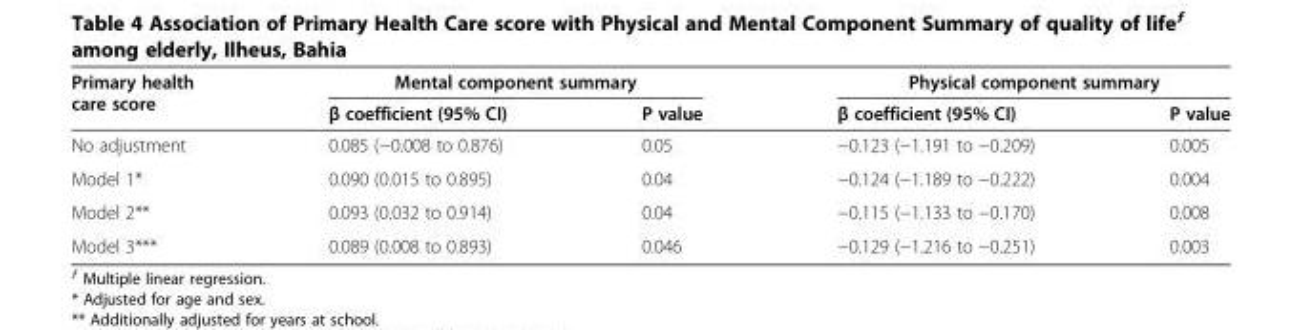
<table><thead><tr><td rowspan="2">Primary health care score</td><td colspan="2">Mental component summary</td><td colspan="2">Physical component summary</td></tr><tr><td>β coefficient (95% CI)</td><td>P value</td><td>β coefficient (95% CI)</td><td>P value</td></tr></thead><tbody><tr><td>No adjustment</td><td>0.085 (−0.008 to 0.876)</td><td>0.05</td><td>−0.123 (−1.191 to −0.209)</td><td>0.005</td></tr><tr><td>Model 1*</td><td>0.090 (0.015 to 0.895)</td><td>0.04</td><td>−0.124 (−1.189 to −0.222)</td><td>0.004</td></tr><tr><td>Model 2**</td><td>0.093 (0.032 to 0.914)</td><td>0.04</td><td>−0.115 (−1.133 to −0.170)</td><td>0.008</td></tr><tr><td>Model 3***</td><td>0.089 (0.008 to 0.893)</td><td>0.046</td><td>−0.129 (−1.216 to −0.251)</td><td>0.003</td></tr></tbody></table>